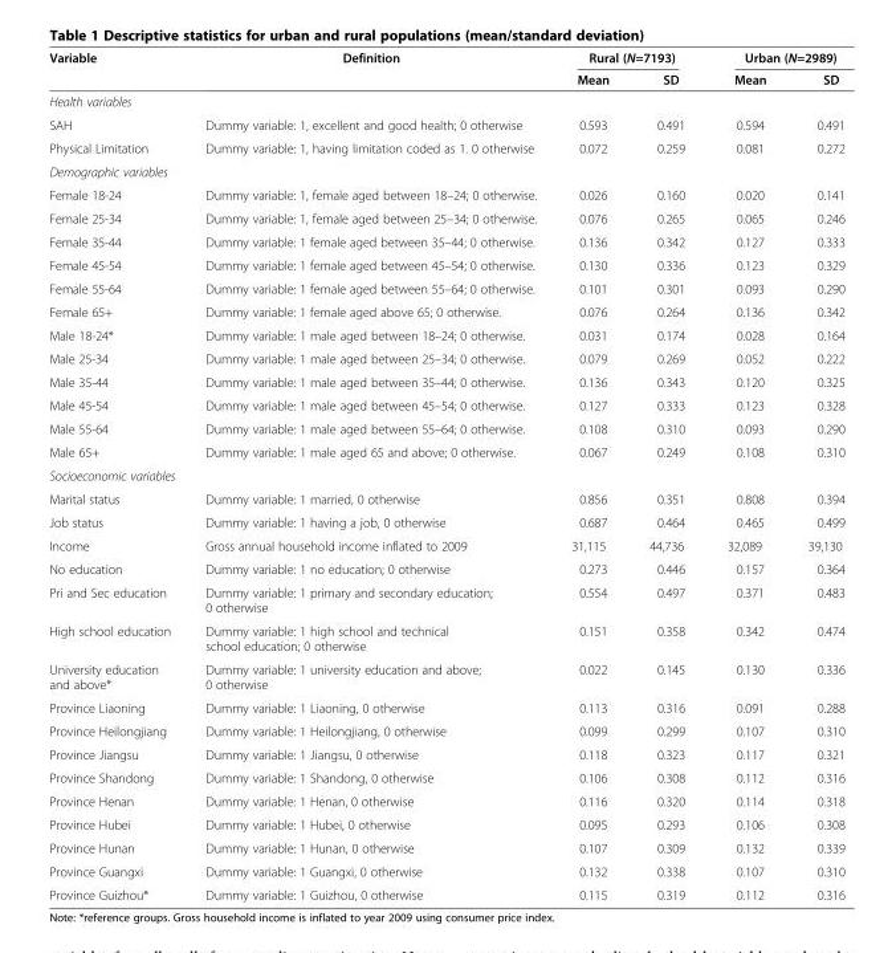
<table><thead><tr><td rowspan="2">Variable</td><td rowspan="2">Definition</td><td colspan="2">Rural (N=7193)</td><td colspan="2">Urban (N=2989)</td></tr><tr><td>Mean</td><td>SD</td><td>Mean</td><td>SD</td></tr></thead><tbody><tr><td colspan="6">Health variables</td></tr><tr><td>SAH</td><td>Dummy variable: 1, excellent and good health; 0 otherwise</td><td>0.593</td><td>0.491</td><td>0.594</td><td>0.491</td></tr><tr><td>Physical Limitation</td><td>Dummy variable: 1, having limitation coded as 1. 0 otherwise</td><td>0.072</td><td>0.259</td><td>0.081</td><td>0.272</td></tr><tr><td colspan="6">Demographic variables</td></tr><tr><td>Female 18-24</td><td>Dummy variable: 1, female aged between 18–24; 0 otherwise.</td><td>0.026</td><td>0.160</td><td>0.020</td><td>0.141</td></tr><tr><td>Female 25-34</td><td>Dummy variable: 1, female aged between 25–34; 0 otherwise.</td><td>0.076</td><td>0.265</td><td>0.065</td><td>0.246</td></tr><tr><td>Female 35-44</td><td>Dummy variable: 1 female aged between 35–44; 0 otherwise.</td><td>0.136</td><td>0.342</td><td>0.127</td><td>0.333</td></tr><tr><td>Female 45-54</td><td>Dummy variable: 1 female aged between 45–54; 0 otherwise.</td><td>0.130</td><td>0.336</td><td>0.123</td><td>0.329</td></tr><tr><td>Female 55-64</td><td>Dummy variable: 1 female aged between 55–64; 0 otherwise.</td><td>0.101</td><td>0.301</td><td>0.093</td><td>0.290</td></tr><tr><td>Female 65+</td><td>Dummy variable: 1 female aged above 65; 0 otherwise.</td><td>0.076</td><td>0.264</td><td>0.136</td><td>0.342</td></tr><tr><td>Male 18-24*</td><td>Dummy variable: 1 male aged between 18–24; 0 otherwise.</td><td>0.031</td><td>0.174</td><td>0.028</td><td>0.164</td></tr><tr><td>Male 25-34</td><td>Dummy variable: 1 male aged between 25–34; 0 otherwise.</td><td>0.079</td><td>0.269</td><td>0.052</td><td>0.222</td></tr><tr><td>Male 35-44</td><td>Dummy variable: 1 male aged between 35–44; 0 otherwise.</td><td>0.136</td><td>0.343</td><td>0.120</td><td>0.325</td></tr><tr><td>Male 45-54</td><td>Dummy variable: 1 male aged between 45–54; 0 otherwise.</td><td>0.127</td><td>0.333</td><td>0.123</td><td>0.328</td></tr><tr><td>Male 55-64</td><td>Dummy variable: 1 male aged between 55–64; 0 otherwise.</td><td>0.108</td><td>0.310</td><td>0.093</td><td>0.290</td></tr><tr><td>Male 65+</td><td>Dummy variable: 1 male aged 65 and above; 0 otherwise.</td><td>0.067</td><td>0.249</td><td>0.108</td><td>0.310</td></tr><tr><td colspan="6">Socioeconomic variables</td></tr><tr><td>Marital status</td><td>Dummy variable: 1 married, 0 otherwise</td><td>0.856</td><td>0.351</td><td>0.808</td><td>0.394</td></tr><tr><td>Job status</td><td>Dummy variable: 1 having a job, 0 otherwise</td><td>0.687</td><td>0.464</td><td>0.465</td><td>0.499</td></tr><tr><td>Income</td><td>Gross annual household income inflated to 2009</td><td>31,115</td><td>44,736</td><td>32,089</td><td>39,130</td></tr><tr><td>No education</td><td>Dummy variable: 1 no education; 0 otherwise</td><td>0.273</td><td>0.446</td><td>0.157</td><td>0.364</td></tr><tr><td>Pri and Sec education</td><td>Dummy variable: 1 primary and secondary education; 0 otherwise</td><td>0.554</td><td>0.497</td><td>0.371</td><td>0.483</td></tr><tr><td>High school education</td><td>Dummy variable: 1 high school and technical school education; 0 otherwise</td><td>0.151</td><td>0.358</td><td>0.342</td><td>0.474</td></tr><tr><td>University education and above*</td><td>Dummy variable: 1 university education and above; 0 otherwise</td><td>0.022</td><td>0.145</td><td>0.130</td><td>0.336</td></tr><tr><td>Province Liaoning</td><td>Dummy variable: 1 Liaoning, 0 otherwise</td><td>0.113</td><td>0.316</td><td>0.091</td><td>0.288</td></tr><tr><td>Province Heilongjiang</td><td>Dummy variable: 1 Heilongjiang, 0 otherwise</td><td>0.099</td><td>0.299</td><td>0.107</td><td>0.310</td></tr><tr><td>Province Jiangsu</td><td>Dummy variable: 1 Jiangsu, 0 otherwise</td><td>0.118</td><td>0.323</td><td>0.117</td><td>0.321</td></tr><tr><td>Province Shandong</td><td>Dummy variable: 1 Shandong, 0 otherwise</td><td>0.106</td><td>0.308</td><td>0.112</td><td>0.316</td></tr><tr><td>Province Henan</td><td>Dummy variable: 1 Henan, 0 otherwise</td><td>0.116</td><td>0.320</td><td>0.114</td><td>0.318</td></tr><tr><td>Province Hubei</td><td>Dummy variable: 1 Hubei, 0 otherwise</td><td>0.095</td><td>0.293</td><td>0.106</td><td>0.308</td></tr><tr><td>Province Hunan</td><td>Dummy variable: 1 Hunan, 0 otherwise</td><td>0.107</td><td>0.309</td><td>0.132</td><td>0.339</td></tr><tr><td>Province Guangxi</td><td>Dummy variable: 1 Guangxi, 0 otherwise</td><td>0.132</td><td>0.338</td><td>0.107</td><td>0.310</td></tr><tr><td>Province Guizhou*</td><td>Dummy variable: 1 Guizhou, 0 otherwise</td><td>0.115</td><td>0.319</td><td>0.112</td><td>0.316</td></tr></tbody></table>